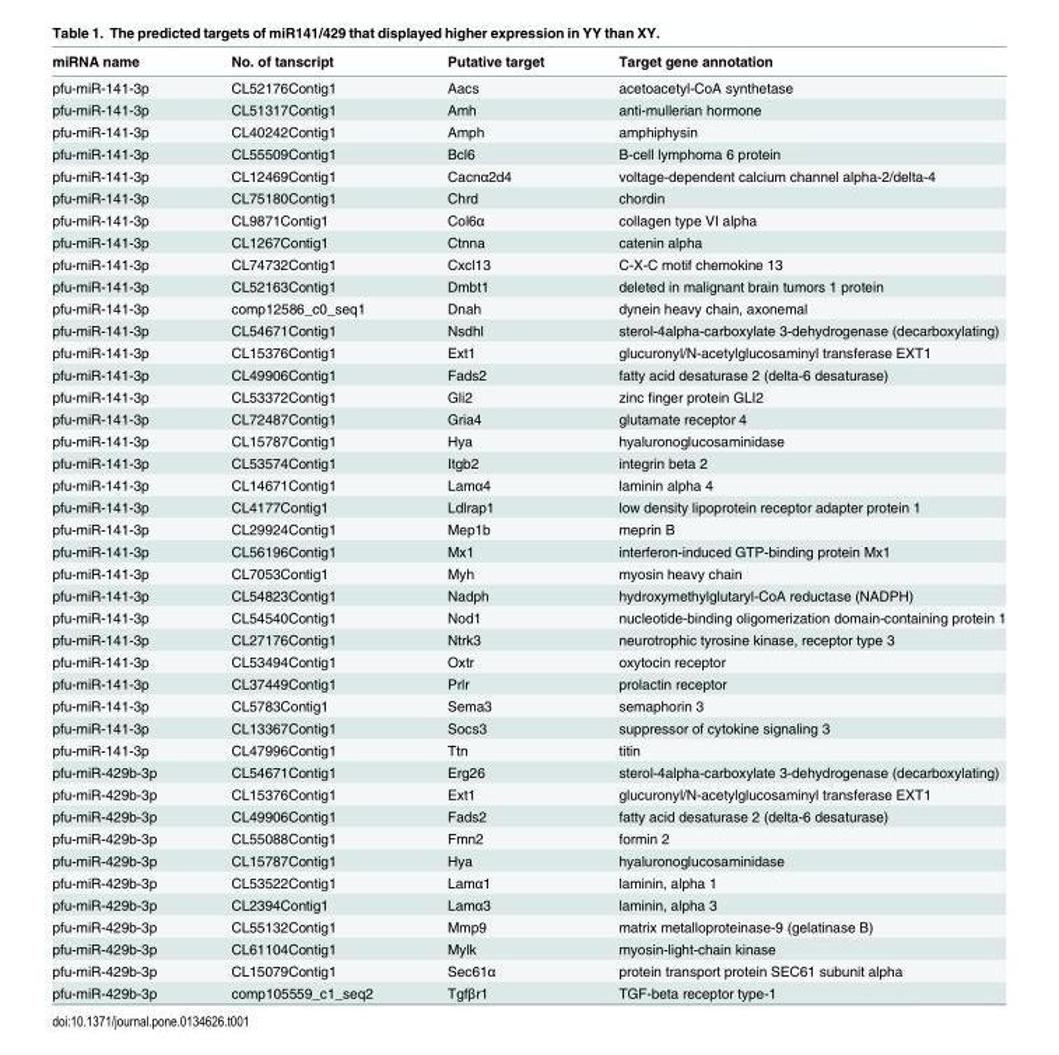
<table><thead><tr><td>miRNA name</td><td>No. of tanscript</td><td>Putative target</td><td>Target gene annotation</td></tr></thead><tbody><tr><td>pfu-miR-141-3p</td><td>CL52176Contig1</td><td>Aacs</td><td>acetoacetyl-CoA synthetase</td></tr><tr><td>pfu-miR-141-3p</td><td>CL51317Contig1</td><td>Amh</td><td>anti-mullerian hormone</td></tr><tr><td>pfu-miR-141-3p</td><td>CL40242Contig1</td><td>Amph</td><td>amphiphysin</td></tr><tr><td>pfu-miR-141-3p</td><td>CL55509Contig1</td><td>Bcl6</td><td>B-cell lymphoma 6 protein</td></tr><tr><td>pfu-miR-141-3p</td><td>CL12469Contig1</td><td>Cacnα2d4</td><td>voltage-dependent calcium channel alpha-2/delta-4</td></tr><tr><td>pfu-miR-141-3p</td><td>CL75180Contig1</td><td>Chrd</td><td>chordin</td></tr><tr><td>pfu-miR-141-3p</td><td>CL9871Contig1</td><td>Col6α</td><td>collagen type VI alpha</td></tr><tr><td>pfu-miR-141-3p</td><td>CL1267Contig1</td><td>Ctnna</td><td>catenin alpha</td></tr><tr><td>pfu-miR-141-3p</td><td>CL74732Contig1</td><td>Cxcl13</td><td>C-X-C motif chemokine 13</td></tr><tr><td>pfu-miR-141-3p</td><td>CL52163Contig1</td><td>Dmbt1</td><td>deleted in malignant brain tumors 1 protein</td></tr><tr><td>pfu-miR-141-3p</td><td>comp12586_c0_seq1</td><td>Dnah</td><td>dynein heavy chain, axonemal</td></tr><tr><td>pfu-miR-141-3p</td><td>CL54671Contig1</td><td>Nsdhl</td><td>sterol-4alpha-carboxylate 3-dehydrogenase (decarboxylating)</td></tr><tr><td>pfu-miR-141-3p</td><td>CL15376Contig1</td><td>Ext1</td><td>glucuronyl/N-acetylglucosaminyl transferase EXT1</td></tr><tr><td>pfu-miR-141-3p</td><td>CL49906Contig1</td><td>Fads2</td><td>fatty acid desaturase 2 (delta-6 desaturase)</td></tr><tr><td>pfu-miR-141-3p</td><td>CL53372Contig1</td><td>Gli2</td><td>zinc finger protein GLI2</td></tr><tr><td>pfu-miR-141-3p</td><td>CL72487Contig1</td><td>Gria4</td><td>glutamate receptor 4</td></tr><tr><td>pfu-miR-141-3p</td><td>CL15787Contig1</td><td>Hya</td><td>hyaluronoglucosaminidase</td></tr><tr><td>pfu-miR-141-3p</td><td>CL53574Contig1</td><td>Itgb2</td><td>integrin beta 2</td></tr><tr><td>pfu-miR-141-3p</td><td>CL14671Contig1</td><td>Lamα4</td><td>laminin alpha 4</td></tr><tr><td>pfu-miR-141-3p</td><td>CL4177Contig1</td><td>Ldlrap1</td><td>low density lipoprotein receptor adapter protein 1</td></tr><tr><td>pfu-miR-141-3p</td><td>CL29924Contig1</td><td>Mep1b</td><td>meprin B</td></tr><tr><td>pfu-miR-141-3p</td><td>CL56196Contig1</td><td>Mx1</td><td>interferon-induced GTP-binding protein Mx1</td></tr><tr><td>pfu-miR-141-3p</td><td>CL7053Contig1</td><td>Myh</td><td>myosin heavy chain</td></tr><tr><td>pfu-miR-141-3p</td><td>CL54823Contig1</td><td>Nadph</td><td>hydroxymethylglutaryl-CoA reductase (NADPH)</td></tr><tr><td>pfu-miR-141-3p</td><td>CL54540Contig1</td><td>Nod1</td><td>nucleotide-binding oligomerization domain-containing protein 1</td></tr><tr><td>pfu-miR-141-3p</td><td>CL27176Contig1</td><td>Ntrk3</td><td>neurotrophic tyrosine kinase, receptor type 3</td></tr><tr><td>pfu-miR-141-3p</td><td>CL53494Contig1</td><td>Oxtr</td><td>oxytocin receptor</td></tr><tr><td>pfu-miR-141-3p</td><td>CL37449Contig1</td><td>Prlr</td><td>prolactin receptor</td></tr><tr><td>pfu-miR-141-3p</td><td>CL5783Contig1</td><td>Sema3</td><td>semaphorin 3</td></tr><tr><td>pfu-miR-141-3p</td><td>CL13367Contig1</td><td>Socs3</td><td>suppressor of cytokine signaling 3</td></tr><tr><td>pfu-miR-141-3p</td><td>CL47996Contig1</td><td>Ttn</td><td>titin</td></tr><tr><td>pfu-miR-429b-3p</td><td>CL54671Contig1</td><td>Erg26</td><td>sterol-4alpha-carboxylate 3-dehydrogenase (decarboxylating)</td></tr><tr><td>pfu-miR-429b-3p</td><td>CL15376Contig1</td><td>Ext1</td><td>glucuronyl/N-acetylglucosaminyl transferase EXT1</td></tr><tr><td>pfu-miR-429b-3p</td><td>CL49906Contig1</td><td>Fads2</td><td>fatty acid desaturase 2 (delta-6 desaturase)</td></tr><tr><td>pfu-miR-429b-3p</td><td>CL55088Contig1</td><td>Fmn2</td><td>formin 2</td></tr><tr><td>pfu-miR-429b-3p</td><td>CL15787Contig1</td><td>Hya</td><td>hyaluronoglucosaminidase</td></tr><tr><td>pfu-miR-429b-3p</td><td>CL53522Contig1</td><td>Lamα1</td><td>laminin, alpha 1</td></tr><tr><td>pfu-miR-429b-3p</td><td>CL2394Contig1</td><td>Lamα3</td><td>laminin, alpha 3</td></tr><tr><td>pfu-miR-429b-3p</td><td>CL55132Contig1</td><td>Mmp9</td><td>matrix metalloproteinase-9 (gelatinase B)</td></tr><tr><td>pfu-miR-429b-3p</td><td>CL61104Contig1</td><td>Mylk</td><td>myosin-light-chain kinase</td></tr><tr><td>pfu-miR-429b-3p</td><td>CL15079Contig1</td><td>Sec61α</td><td>protein transport protein SEC61 subunit alpha</td></tr><tr><td>pfu-miR-429b-3p</td><td>comp105559_c1_seq2</td><td>Tgfβr1</td><td>TGF-beta receptor type-1</td></tr></tbody></table>